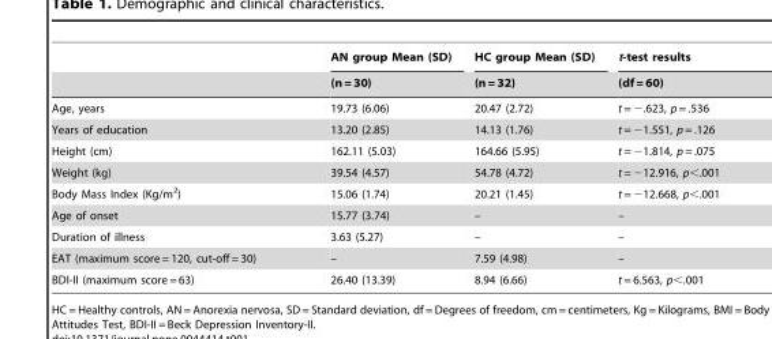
<table><thead><tr><td rowspan="2"></td><td rowspan="2">AN group Mean (SD) (n = 30)</td><td rowspan="2">HC group Mean (SD) (n = 32)</td><td rowspan="2">t-test results (df = 60)</td></tr><tr></tr></thead><tbody><tr><td>Age, years</td><td>19.73 (6.06)</td><td>20.47 (2.72)</td><td>t = −.623, p = .536</td></tr><tr><td>Years of education</td><td>13.20 (2.85)</td><td>14.13 (1.76)</td><td>t = −1.551, p = .126</td></tr><tr><td>Height (cm)</td><td>162.11 (5.03)</td><td>164.66 (5.95)</td><td>t = −1.814, p = .075</td></tr><tr><td>Weight (kg)</td><td>39.54 (4.57)</td><td>54.78 (4.72)</td><td>t = −12.916, p&lt;.001</td></tr><tr><td>Body Mass Index (Kg/m<sup>2</sup>)</td><td>15.06 (1.74)</td><td>20.21 (1.45)</td><td>t = −12.668, p&lt;.001</td></tr><tr><td>Age of onset</td><td>15.77 (3.74)</td><td>–</td><td>–</td></tr><tr><td>Duration of illness</td><td>3.63 (5.27)</td><td>–</td><td>–</td></tr><tr><td>EAT (maximum score = 120, cut-off = 30)</td><td>–</td><td>7.59 (4.98)</td><td>–</td></tr><tr><td>BDI-II (maximum score = 63)</td><td>26.40 (13.39)</td><td>8.94 (6.66)</td><td>t = 6.563, p&lt;.001</td></tr></tbody></table>